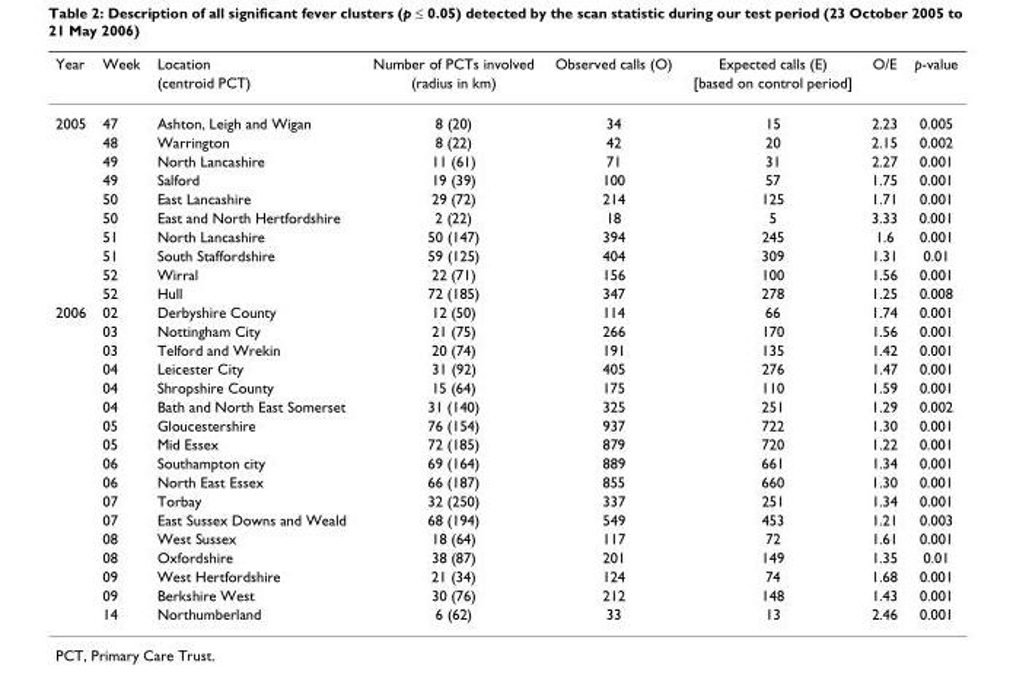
<table><thead><tr><td rowspan="2">Year</td><td rowspan="2">Week</td><td rowspan="2">Location (centroid PCT)</td><td rowspan="2">Number of PCTs involved (radius in km)</td><td rowspan="2">Observed calls (O)</td><td rowspan="2">Expected calls (E) [based on control period]</td><td rowspan="2">O/E</td><td rowspan="2">p-value</td></tr><tr></tr></thead><tbody><tr><td rowspan="10">2005</td><td>47</td><td>Ashton, Leigh and Wigan</td><td>8 (20)</td><td>34</td><td>15</td><td>2.23</td><td>0.005</td></tr><tr><td>48</td><td>Warrington</td><td>8 (22)</td><td>42</td><td>20</td><td>2.15</td><td>0.002</td></tr><tr><td>49</td><td>North Lancashire</td><td>11 (61)</td><td>71</td><td>31</td><td>2.27</td><td>0.001</td></tr><tr><td>49</td><td>Salford</td><td>19 (39)</td><td>100</td><td>57</td><td>1.75</td><td>0.001</td></tr><tr><td>50</td><td>East Lancashire</td><td>29 (72)</td><td>214</td><td>125</td><td>1.71</td><td>0.001</td></tr><tr><td>50</td><td>East and North Hertfordshire</td><td>2 (22)</td><td>18</td><td>5</td><td>3.33</td><td>0.001</td></tr><tr><td>51</td><td>North Lancashire</td><td>50 (147)</td><td>394</td><td>245</td><td>1.6</td><td>0.001</td></tr><tr><td>51</td><td>South Staffordshire</td><td>59 (125)</td><td>404</td><td>309</td><td>1.31</td><td>0.01</td></tr><tr><td>52</td><td>Wirral</td><td>22 (71)</td><td>156</td><td>100</td><td>1.56</td><td>0.001</td></tr><tr><td>52</td><td>Hull</td><td>72 (185)</td><td>347</td><td>278</td><td>1.25</td><td>0.008</td></tr><tr><td rowspan="17">2006</td><td>02</td><td>Derbyshire County</td><td>12 (50)</td><td>114</td><td>66</td><td>1.74</td><td>0.001</td></tr><tr><td>03</td><td>Nottingham City</td><td>21 (75)</td><td>266</td><td>170</td><td>1.56</td><td>0.001</td></tr><tr><td>03</td><td>Telford and Wrekin</td><td>20 (74)</td><td>191</td><td>135</td><td>1.42</td><td>0.001</td></tr><tr><td>04</td><td>Leicester City</td><td>31 (92)</td><td>405</td><td>276</td><td>1.47</td><td>0.001</td></tr><tr><td>04</td><td>Shropshire County</td><td>15 (64)</td><td>175</td><td>110</td><td>1.59</td><td>0.001</td></tr><tr><td>04</td><td>Bath and North East Somerset</td><td>31 (140)</td><td>325</td><td>251</td><td>1.29</td><td>0.002</td></tr><tr><td>05</td><td>Gloucestershire</td><td>76 (154)</td><td>937</td><td>722</td><td>1.30</td><td>0.001</td></tr><tr><td>05</td><td>Mid Essex</td><td>72 (185)</td><td>879</td><td>720</td><td>1.22</td><td>0.001</td></tr><tr><td>06</td><td>Southampton city</td><td>69 (164)</td><td>889</td><td>661</td><td>1.34</td><td>0.001</td></tr><tr><td>06</td><td>North East Essex</td><td>66 (187)</td><td>855</td><td>660</td><td>1.30</td><td>0.001</td></tr><tr><td>07</td><td>Torbay</td><td>32 (250)</td><td>337</td><td>251</td><td>1.34</td><td>0.001</td></tr><tr><td>07</td><td>East Sussex Downs and Weald</td><td>68 (194)</td><td>549</td><td>453</td><td>1.21</td><td>0.003</td></tr><tr><td>08</td><td>West Sussex</td><td>18 (64)</td><td>117</td><td>72</td><td>1.61</td><td>0.001</td></tr><tr><td>08</td><td>Oxfordshire</td><td>38 (87)</td><td>201</td><td>149</td><td>1.35</td><td>0.01</td></tr><tr><td>09</td><td>West Hertfordshire</td><td>21 (34)</td><td>124</td><td>74</td><td>1.68</td><td>0.001</td></tr><tr><td>09</td><td>Berkshire West</td><td>30 (76)</td><td>212</td><td>148</td><td>1.43</td><td>0.001</td></tr><tr><td>14</td><td>Northumberland</td><td>6 (62)</td><td>33</td><td>13</td><td>2.46</td><td>0.001</td></tr></tbody></table>